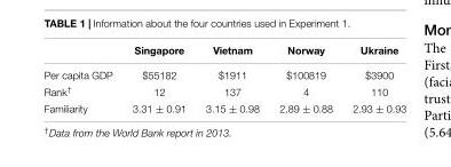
<table><thead><tr><td></td><td>Singapore</td><td>Vietnam</td><td>Norway</td><td>Ukraine</td></tr></thead><tbody><tr><td>Per capita GDP</td><td>$55182</td><td>$1911</td><td>$100819</td><td>$3900</td></tr><tr><td>Rank<sup>†</sup></td><td>12</td><td>137</td><td>4</td><td>110</td></tr><tr><td>Familiarity</td><td>3.31 ± 0.91</td><td>3.15 ± 0.98</td><td>2.89 ± 0.88</td><td>2.93 ± 0.93</td></tr></tbody></table>